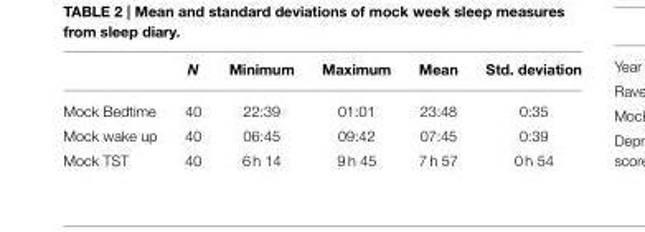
<table><thead><tr><td></td><td>N</td><td>Minimum</td><td>Maximum</td><td>Mean</td><td>Std. deviation</td></tr></thead><tbody><tr><td>Mock Bedtime</td><td>40</td><td>22:39</td><td>01:01</td><td>23:48</td><td>0:35</td></tr><tr><td>Mock wake up</td><td>40</td><td>06:45</td><td>09:42</td><td>07:45</td><td>0:39</td></tr><tr><td>Mock TST</td><td>40</td><td>6 h 14</td><td>9 h 45</td><td>7 h 57</td><td>0 h 54</td></tr></tbody></table>